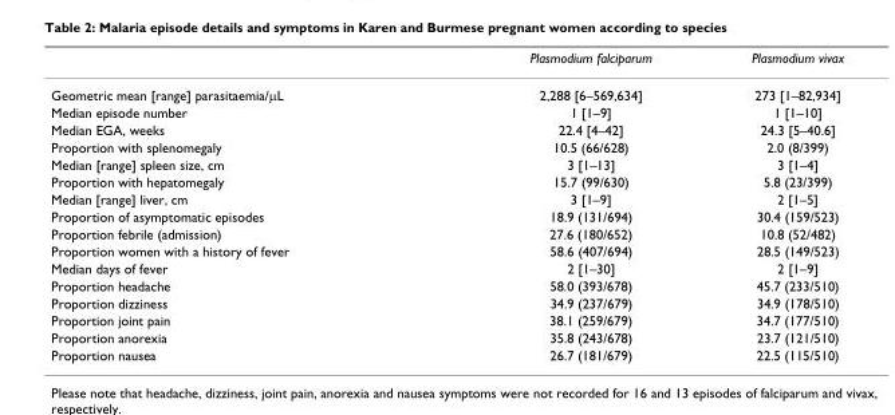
<table><thead><tr><td></td><td>Plasmodium falciparum</td><td>Plasmodium vivax</td></tr></thead><tbody><tr><td>Geometric mean [range] parasitaemia/μL</td><td>2,288 [6–569,634]</td><td>273 [1–82,934]</td></tr><tr><td>Median episode number</td><td>1 [1–9]</td><td>1 [1–10]</td></tr><tr><td>Median EGA, weeks</td><td>22.4 [4–42]</td><td>24.3 [5–40.6]</td></tr><tr><td>Proportion with splenomegaly</td><td>10.5 (66/628)</td><td>2.0 (8/399)</td></tr><tr><td>Median [range] spleen size, cm</td><td>3 [1–13]</td><td>3 [1–4]</td></tr><tr><td>Proportion with hepatomegaly</td><td>15.7 (99/630)</td><td>5.8 (23/399)</td></tr><tr><td>Median [range] liver, cm</td><td>3 [1–9]</td><td>2 [1–5]</td></tr><tr><td>Proportion of asymptomatic episodes</td><td>18.9 (131/694)</td><td>30.4 (159/523)</td></tr><tr><td>Proportion febrile (admission)</td><td>27.6 (180/652)</td><td>10.8 (52/482)</td></tr><tr><td>Proportion women with a history of fever</td><td>58.6 (407/694)</td><td>28.5 (149/523)</td></tr><tr><td>Median days of fever</td><td>2 [1–30]</td><td>2 [1–9]</td></tr><tr><td>Proportion headache</td><td>58.0 (393/678)</td><td>45.7 (233/510)</td></tr><tr><td>Proportion dizziness</td><td>34.9 (237/679)</td><td>34.9 (178/510)</td></tr><tr><td>Proportion joint pain</td><td>38.1 (259/679)</td><td>34.7 (177/510)</td></tr><tr><td>Proportion anorexia</td><td>35.8 (243/678)</td><td>23.7 (121/510)</td></tr><tr><td>Proportion nausea</td><td>26.7 (181/679)</td><td>22.5 (115/510)</td></tr></tbody></table>